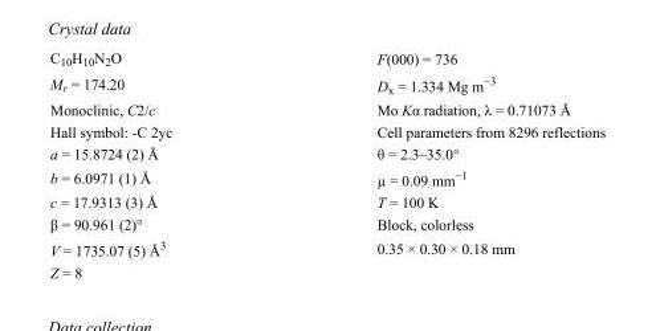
<table><tbody><tr><td>C<sub>10</sub>H<sub>10</sub>N<sub>2</sub>O</td><td>F(000) = 736</td></tr><tr><td>M<sub>r</sub> = 174.20</td><td>D<sub>x</sub> = 1.334 Mg m<sup>−3</sup></td></tr><tr><td>Monoclinic, C2/c</td><td>Mo Kα radiation, λ = 0.71073 Å</td></tr><tr><td>Hall symbol: -C 2yc</td><td>Cell parameters from 8296 reflections</td></tr><tr><td>a = 15.8724 (2) Å</td><td>θ = 2.3–35.0°</td></tr><tr><td>b = 6.0971 (1) Å</td><td>µ = 0.09 mm<sup>−1</sup></td></tr><tr><td>c = 17.9313 (3) Å</td><td>T = 100 K</td></tr><tr><td>β = 90.961 (2)°</td><td>Block, colorless</td></tr><tr><td>V = 1735.07 (5) Å<sup>3</sup></td><td>0.35 × 0.30 × 0.18 mm</td></tr><tr><td>Z = 8</td><td></td></tr></tbody></table>